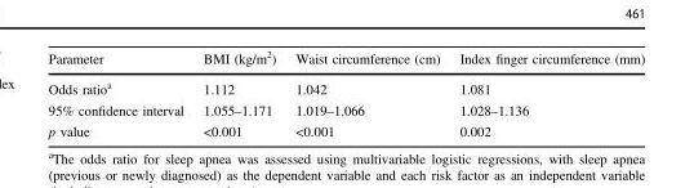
<table><thead><tr><td>Parameter</td><td>BMI (kg/m<sup>2</sup>)</td><td>Waist circumference (cm)</td><td>Index finger circumference (mm)</td></tr></thead><tbody><tr><td>Odds ratio<sup>a</sup></td><td>1.112</td><td>1.042</td><td>1.081</td></tr><tr><td>95% confidence interval</td><td>1.055–1.171</td><td>1.019–1.066</td><td>1.028–1.136</td></tr><tr><td>p value</td><td>&lt;0.001</td><td>&lt;0.001</td><td>0.002</td></tr></tbody></table>